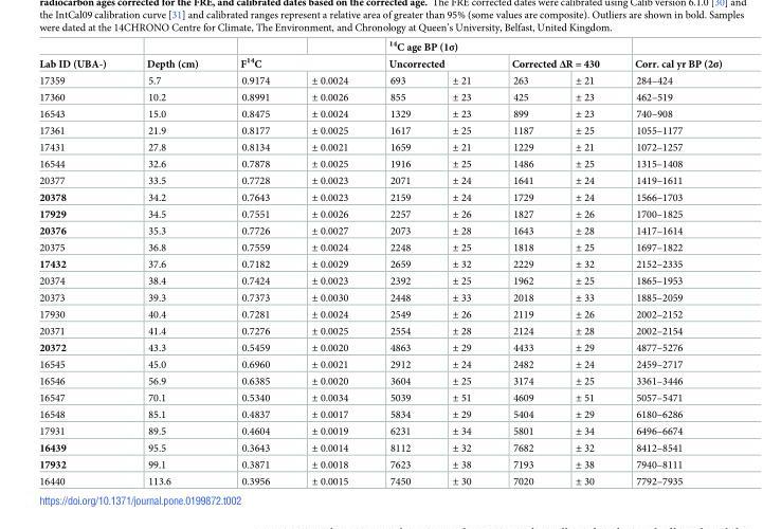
<table><thead><tr><td rowspan="3">Lab ID (UBA-) 17359</td><td rowspan="3">Depth (cm) 5.7</td><td></td><td></td><td colspan="4"><sup>14</sup>C age BP (1σ)</td><td rowspan="3">Corr. cal yr BP (2σ) 284–424</td></tr><tr><td colspan="2">F<sup>14</sup>C</td><td colspan="2">Uncorrected</td><td colspan="2">Corrected ΔR = 430</td></tr><tr><td>0.9174</td><td>± 0.0024</td><td>693</td><td>± 21</td><td>263</td><td>± 21</td></tr></thead><tbody><tr><td>17360</td><td>10.2</td><td>0.8991</td><td>± 0.0026</td><td>855</td><td>± 23</td><td>425</td><td>± 23</td><td>462–519</td></tr><tr><td>16543</td><td>15.0</td><td>0.8475</td><td>± 0.0024</td><td>1329</td><td>± 23</td><td>899</td><td>± 23</td><td>740–908</td></tr><tr><td>17361</td><td>21.9</td><td>0.8177</td><td>± 0.0025</td><td>1617</td><td>± 25</td><td>1187</td><td>± 25</td><td>1055–1177</td></tr><tr><td>17431</td><td>27.8</td><td>0.8134</td><td>± 0.0021</td><td>1659</td><td>± 21</td><td>1229</td><td>± 21</td><td>1072–1257</td></tr><tr><td>16544</td><td>32.6</td><td>0.7878</td><td>± 0.0025</td><td>1916</td><td>± 25</td><td>1486</td><td>± 25</td><td>1315–1408</td></tr><tr><td>20377</td><td>33.5</td><td>0.7728</td><td>± 0.0023</td><td>2071</td><td>± 24</td><td>1641</td><td>± 24</td><td>1419–1611</td></tr><tr><td>20378</td><td>34.2</td><td>0.7643</td><td>± 0.0023</td><td>2159</td><td>± 24</td><td>1729</td><td>± 24</td><td>1566–1703</td></tr><tr><td>17929</td><td>34.5</td><td>0.7551</td><td>± 0.0026</td><td>2257</td><td>± 26</td><td>1827</td><td>± 26</td><td>1700–1825</td></tr><tr><td>20376</td><td>35.3</td><td>0.7726</td><td>± 0.0027</td><td>2073</td><td>± 28</td><td>1643</td><td>± 28</td><td>1417–1614</td></tr><tr><td>20375</td><td>36.8</td><td>0.7559</td><td>± 0.0024</td><td>2248</td><td>± 25</td><td>1818</td><td>± 25</td><td>1697–1822</td></tr><tr><td>17432</td><td>37.6</td><td>0.7182</td><td>± 0.0029</td><td>2659</td><td>± 32</td><td>2229</td><td>± 32</td><td>2152–2335</td></tr><tr><td>20374</td><td>38.4</td><td>0.7424</td><td>± 0.0023</td><td>2392</td><td>± 25</td><td>1962</td><td>± 25</td><td>1865–1953</td></tr><tr><td>20373</td><td>39.3</td><td>0.7373</td><td>± 0.0030</td><td>2448</td><td>± 33</td><td>2018</td><td>± 33</td><td>1885–2059</td></tr><tr><td>17930</td><td>40.4</td><td>0.7281</td><td>± 0.0024</td><td>2549</td><td>± 26</td><td>2119</td><td>± 26</td><td>2002–2152</td></tr><tr><td>20371</td><td>41.4</td><td>0.7276</td><td>± 0.0025</td><td>2554</td><td>± 28</td><td>2124</td><td>± 28</td><td>2002–2154</td></tr><tr><td>20372</td><td>43.3</td><td>0.5459</td><td>± 0.0020</td><td>4863</td><td>± 29</td><td>4433</td><td>± 29</td><td>4877–5276</td></tr><tr><td>16545</td><td>45.0</td><td>0.6960</td><td>± 0.0021</td><td>2912</td><td>± 24</td><td>2482</td><td>± 24</td><td>2459–2717</td></tr><tr><td>16546</td><td>56.9</td><td>0.6385</td><td>± 0.0020</td><td>3604</td><td>± 25</td><td>3174</td><td>± 25</td><td>3361–3446</td></tr><tr><td>16547</td><td>70.1</td><td>0.5340</td><td>± 0.0034</td><td>5039</td><td>± 51</td><td>4609</td><td>± 51</td><td>5057–5471</td></tr><tr><td>16548</td><td>85.1</td><td>0.4837</td><td>± 0.0017</td><td>5834</td><td>± 29</td><td>5404</td><td>± 29</td><td>6180–6286</td></tr><tr><td>17931</td><td>89.5</td><td>0.4604</td><td>± 0.0019</td><td>6231</td><td>± 34</td><td>5801</td><td>± 34</td><td>6496–6674</td></tr><tr><td>16439</td><td>95.5</td><td>0.3643</td><td>± 0.0014</td><td>8112</td><td>± 32</td><td>7682</td><td>± 32</td><td>8412–8541</td></tr><tr><td>17932</td><td>99.1</td><td>0.3871</td><td>± 0.0018</td><td>7623</td><td>± 38</td><td>7193</td><td>± 38</td><td>7940–8111</td></tr><tr><td>16440</td><td>113.6</td><td>0.3956</td><td>± 0.0015</td><td>7450</td><td>± 30</td><td>7020</td><td>± 30</td><td>7792–7935</td></tr></tbody></table>